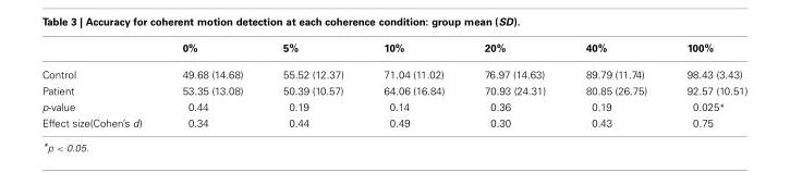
<table><thead><tr><td></td><td>0%</td><td>5%</td><td>10%</td><td>20%</td><td>40%</td><td>100%</td></tr></thead><tbody><tr><td>Control</td><td>49.68 (14.68)</td><td>55.52 (12.37)</td><td>71.04 (11.02)</td><td>76.97 (14.63)</td><td>89.79 (11.74)</td><td>98.43 (3.43)</td></tr><tr><td>Patient</td><td>53.35 (13.08)</td><td>50.39 (10.57)</td><td>64.06 (16.84)</td><td>70.93 (24.31)</td><td>80.85 (26.75)</td><td>92.57 (10.51)</td></tr><tr><td>p-value</td><td>0.44</td><td>0.19</td><td>0.14</td><td>0.36</td><td>0.19</td><td>0.025*</td></tr><tr><td>Effect size(Cohen’s d)</td><td>0.34</td><td>0.44</td><td>0.49</td><td>0.30</td><td>0.43</td><td>0.75</td></tr></tbody></table>